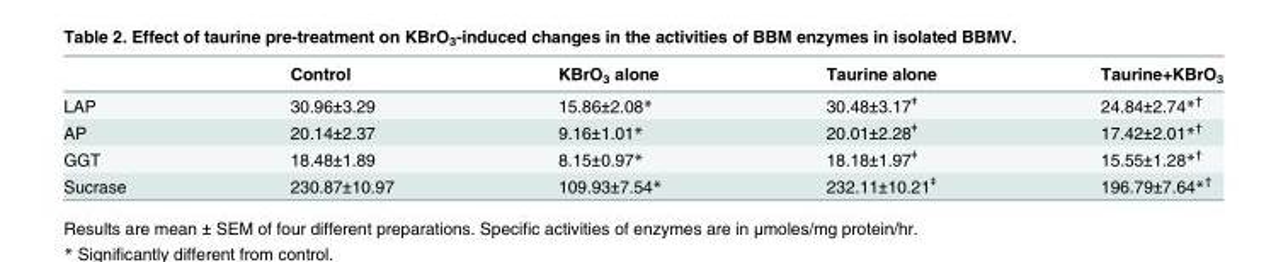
<table><thead><tr><td></td><td>Control</td><td>KBrO<sub>3</sub> alone</td><td>Taurine alone</td><td>Taurine+KBrO<sub>3</sub></td></tr></thead><tbody><tr><td>LAP</td><td>30.96±3.29</td><td>15.86±2.08*</td><td>30.48±3.17<sup>ǂ</sup></td><td>24.84±2.74*<sup>†</sup></td></tr><tr><td>AP</td><td>20.14±2.37</td><td>9.16±1.01*</td><td>20.01±2.28<sup>ǂ</sup></td><td>17.42±2.01*<sup>†</sup></td></tr><tr><td>GGT</td><td>18.48±1.89</td><td>8.15±0.97*</td><td>18.18±1.97<sup>ǂ</sup></td><td>15.55±1.28*<sup>†</sup></td></tr><tr><td>Sucrase</td><td>230.87±10.97</td><td>109.93±7.54*</td><td>232.11±10.21<sup>ǂ</sup></td><td>196.79±7.64*<sup>†</sup></td></tr></tbody></table>